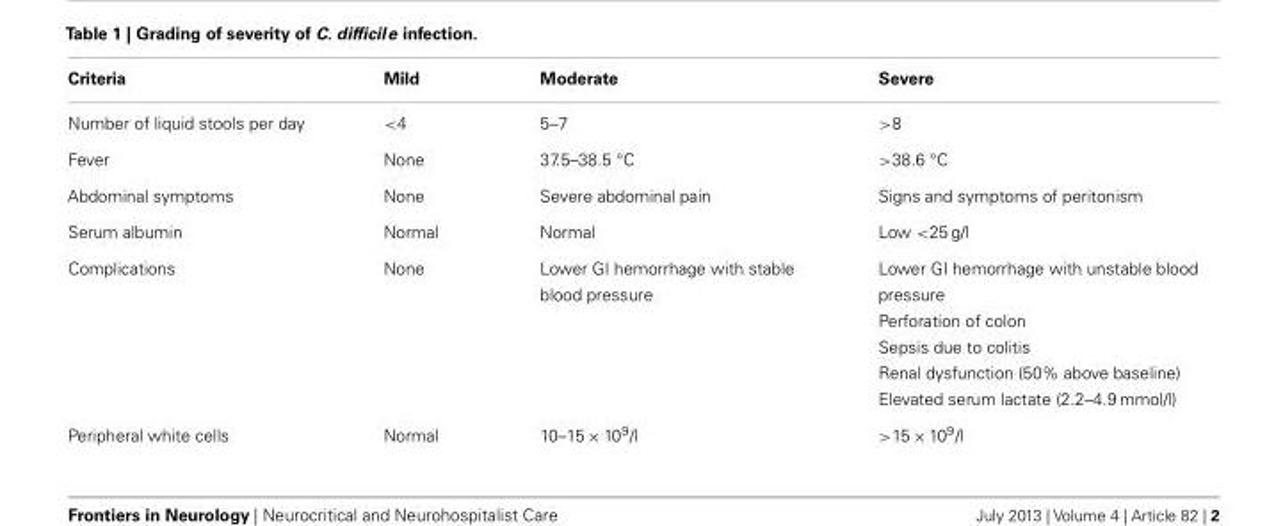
<table><thead><tr><td>Criteria</td><td>Mild</td><td>Moderate</td><td>Severe</td></tr></thead><tbody><tr><td>Number of liquid stools per day</td><td>&lt;4</td><td>5–7</td><td>&gt;8</td></tr><tr><td>Fever</td><td>None</td><td>37.5–38.5 °C</td><td>&gt;38.6 °C</td></tr><tr><td>Abdominal symptoms</td><td>None</td><td>Severe abdominal pain</td><td>Signs and symptoms of peritonism</td></tr><tr><td>Serum albumin</td><td>Normal</td><td>Normal</td><td>Low &lt;25 g/l</td></tr><tr><td rowspan="5">Complications</td><td>None</td><td>Lower GI hemorrhage with stable blood pressure</td><td>Lower GI hemorrhage with unstable blood pressure</td></tr><tr><td></td><td></td><td>Perforation of colon</td></tr><tr><td></td><td></td><td>Sepsis due to colitis</td></tr><tr><td></td><td></td><td>Renal dysfunction (50% above baseline)</td></tr><tr><td></td><td></td><td>Elevated serum lactate (2.2–4.9 mmol/l)</td></tr><tr><td>Peripheral white cells</td><td>Normal</td><td>10–15 × 10<sup>9</sup>/l</td><td>&gt;15 × 10<sup>9</sup>/l</td></tr></tbody></table>